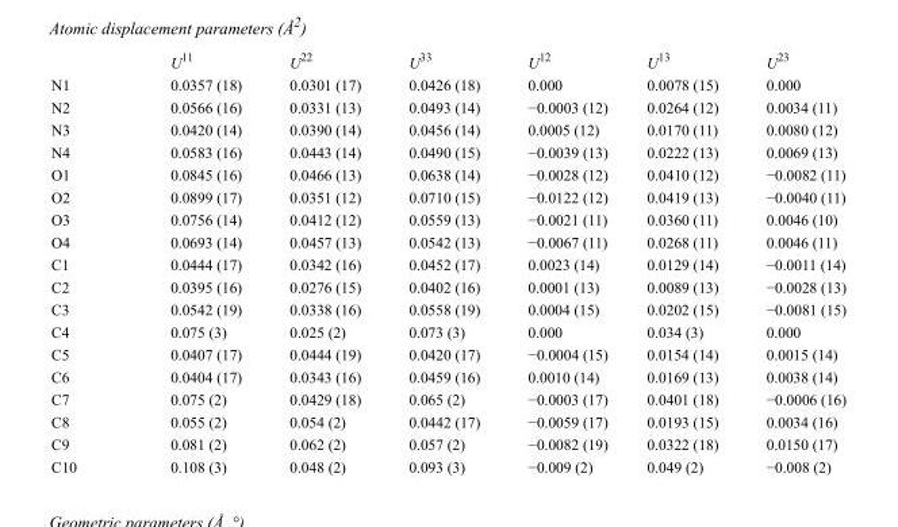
<table><thead><tr><td></td><td>U<sup>11</sup></td><td>U<sup>22</sup></td><td>U<sup>33</sup></td><td>U<sup>12</sup></td><td>U<sup>13</sup></td><td>U<sup>23</sup></td></tr></thead><tbody><tr><td>N1</td><td>0.0357 (18)</td><td>0.0301 (17)</td><td>0.0426 (18)</td><td>0.000</td><td>0.0078 (15)</td><td>0.000</td></tr><tr><td>N2</td><td>0.0566 (16)</td><td>0.0331 (13)</td><td>0.0493 (14)</td><td>−0.0003 (12)</td><td>0.0264 (12)</td><td>0.0034 (11)</td></tr><tr><td>N3</td><td>0.0420 (14)</td><td>0.0390 (14)</td><td>0.0456 (14)</td><td>0.0005 (12)</td><td>0.0170 (11)</td><td>0.0080 (12)</td></tr><tr><td>N4</td><td>0.0583 (16)</td><td>0.0443 (14)</td><td>0.0490 (15)</td><td>−0.0039 (13)</td><td>0.0222 (13)</td><td>0.0069 (13)</td></tr><tr><td>O1</td><td>0.0845 (16)</td><td>0.0466 (13)</td><td>0.0638 (14)</td><td>−0.0028 (12)</td><td>0.0410 (12)</td><td>−0.0082 (11)</td></tr><tr><td>O2</td><td>0.0899 (17)</td><td>0.0351 (12)</td><td>0.0710 (15)</td><td>−0.0122 (12)</td><td>0.0419 (13)</td><td>−0.0040 (11)</td></tr><tr><td>O3</td><td>0.0756 (14)</td><td>0.0412 (12)</td><td>0.0559 (13)</td><td>−0.0021 (11)</td><td>0.0360 (11)</td><td>0.0046 (10)</td></tr><tr><td>O4</td><td>0.0693 (14)</td><td>0.0457 (13)</td><td>0.0542 (13)</td><td>−0.0067 (11)</td><td>0.0268 (11)</td><td>0.0046 (11)</td></tr><tr><td>C1</td><td>0.0444 (17)</td><td>0.0342 (16)</td><td>0.0452 (17)</td><td>0.0023 (14)</td><td>0.0129 (14)</td><td>−0.0011 (14)</td></tr><tr><td>C2</td><td>0.0395 (16)</td><td>0.0276 (15)</td><td>0.0402 (16)</td><td>0.0001 (13)</td><td>0.0089 (13)</td><td>−0.0028 (13)</td></tr><tr><td>C3</td><td>0.0542 (19)</td><td>0.0338 (16)</td><td>0.0558 (19)</td><td>0.0004 (15)</td><td>0.0202 (15)</td><td>−0.0081 (15)</td></tr><tr><td>C4</td><td>0.075 (3)</td><td>0.025 (2)</td><td>0.073 (3)</td><td>0.000</td><td>0.034 (3)</td><td>0.000</td></tr><tr><td>C5</td><td>0.0407 (17)</td><td>0.0444 (19)</td><td>0.0420 (17)</td><td>−0.0004 (15)</td><td>0.0154 (14)</td><td>0.0015 (14)</td></tr><tr><td>C6</td><td>0.0404 (17)</td><td>0.0343 (16)</td><td>0.0459 (16)</td><td>0.0010 (14)</td><td>0.0169 (13)</td><td>0.0038 (14)</td></tr><tr><td>C7</td><td>0.075 (2)</td><td>0.0429 (18)</td><td>0.065 (2)</td><td>−0.0003 (17)</td><td>0.0401 (18)</td><td>−0.0006 (16)</td></tr><tr><td>C8</td><td>0.055 (2)</td><td>0.054 (2)</td><td>0.0442 (17)</td><td>−0.0059 (17)</td><td>0.0193 (15)</td><td>0.0034 (16)</td></tr><tr><td>C9</td><td>0.081 (2)</td><td>0.062 (2)</td><td>0.057 (2)</td><td>−0.0082 (19)</td><td>0.0322 (18)</td><td>0.0150 (17)</td></tr><tr><td>C10</td><td>0.108 (3)</td><td>0.048 (2)</td><td>0.093 (3)</td><td>−0.009 (2)</td><td>0.049 (2)</td><td>−0.008 (2)</td></tr></tbody></table>